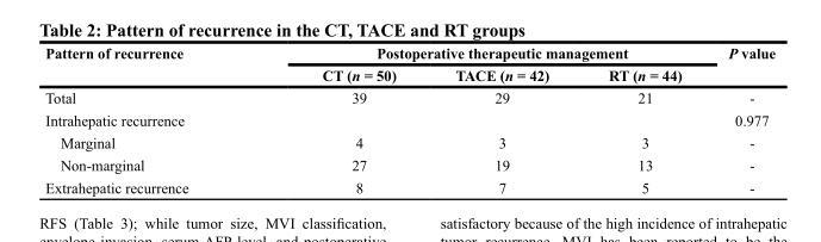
<table><thead><tr><td rowspan="2">Pattern of recurrence</td><td colspan="3">Postoperative therapeutic management</td><td rowspan="2">P value</td></tr><tr><td>CT (n = 50)</td><td>TACE (n = 42)</td><td>RT (n = 44)</td></tr></thead><tbody><tr><td>Total</td><td>39</td><td>29</td><td>21</td><td>-</td></tr><tr><td>Intrahepatic recurrence</td><td></td><td></td><td></td><td>0.977</td></tr><tr><td>Marginal</td><td>4</td><td>3</td><td>3</td><td>-</td></tr><tr><td>Non-marginal</td><td>27</td><td>19</td><td>13</td><td>-</td></tr><tr><td>Extrahepatic recurrence</td><td>8</td><td>7</td><td>5</td><td>-</td></tr></tbody></table>